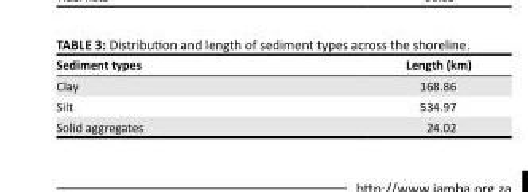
<table><thead><tr><td>Sediment types</td><td>Length (km)</td></tr></thead><tbody><tr><td>Clay</td><td>168.86</td></tr><tr><td>Silt</td><td>534.97</td></tr><tr><td>Solid aggregates</td><td>24.02</td></tr></tbody></table>